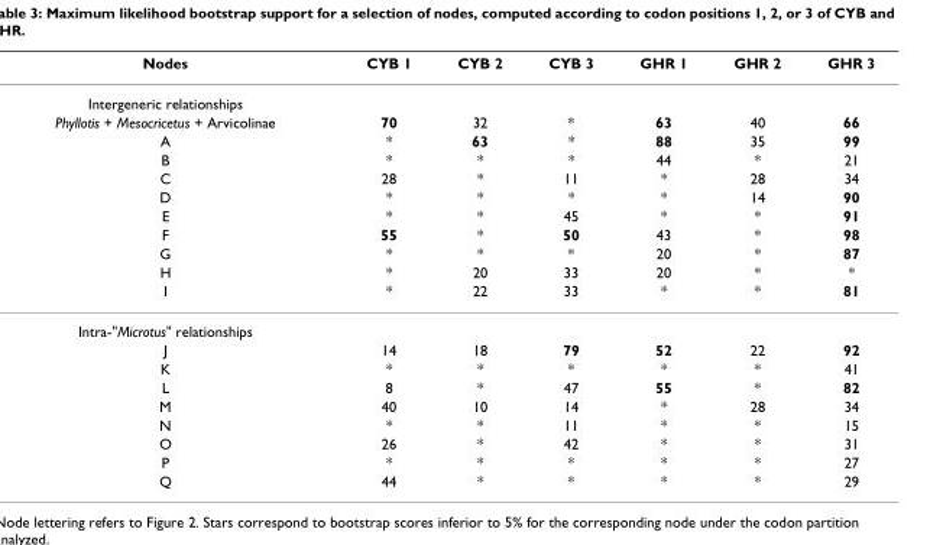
<table><thead><tr><td>Nodes</td><td>CYB 1</td><td>CYB 2</td><td>CYB 3</td><td>GHR 1</td><td>GHR 2</td><td>GHR 3</td></tr></thead><tbody><tr><td colspan="7">Intergeneric relationships</td></tr><tr><td>Phyllotis + Mesocricetus + Arvicolinae</td><td>70</td><td>32</td><td>*</td><td>63</td><td>40</td><td>66</td></tr><tr><td>A</td><td>*</td><td>63</td><td>*</td><td>88</td><td>35</td><td>99</td></tr><tr><td>B</td><td>*</td><td>*</td><td>*</td><td>44</td><td>*</td><td>21</td></tr><tr><td>C</td><td>28</td><td>*</td><td>11</td><td>*</td><td>28</td><td>34</td></tr><tr><td>D</td><td>*</td><td>*</td><td>*</td><td>*</td><td>14</td><td>90</td></tr><tr><td>E</td><td>*</td><td>*</td><td>45</td><td>*</td><td>*</td><td>91</td></tr><tr><td>F</td><td>55</td><td>*</td><td>50</td><td>43</td><td>*</td><td>98</td></tr><tr><td>G</td><td>*</td><td>*</td><td>*</td><td>20</td><td>*</td><td>87</td></tr><tr><td>H</td><td>*</td><td>20</td><td>33</td><td>20</td><td>*</td><td>*</td></tr><tr><td>I</td><td>*</td><td>22</td><td>33</td><td>*</td><td>*</td><td>81</td></tr><tr><td colspan="7">Intra-&quot;Microtus&quot; relationships</td></tr><tr><td>J</td><td>14</td><td>18</td><td>79</td><td>52</td><td>22</td><td>92</td></tr><tr><td>K</td><td>*</td><td>*</td><td>*</td><td>*</td><td>*</td><td>41</td></tr><tr><td>L</td><td>8</td><td>*</td><td>47</td><td>55</td><td>*</td><td>82</td></tr><tr><td>M</td><td>40</td><td>10</td><td>14</td><td>*</td><td>28</td><td>34</td></tr><tr><td>N</td><td>*</td><td>*</td><td>11</td><td>*</td><td>*</td><td>15</td></tr><tr><td>O</td><td>26</td><td>*</td><td>42</td><td>*</td><td>*</td><td>31</td></tr><tr><td>P</td><td>*</td><td>*</td><td>*</td><td>*</td><td>*</td><td>27</td></tr><tr><td>Q</td><td>44</td><td>*</td><td>*</td><td>*</td><td>*</td><td>29</td></tr></tbody></table>